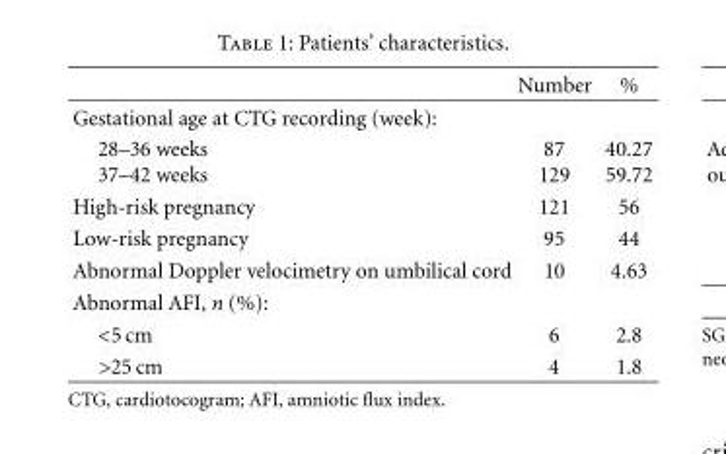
<table><thead><tr><td></td><td>Number</td><td>%</td></tr></thead><tbody><tr><td colspan="3">Gestational age at CTG recording (week):</td></tr><tr><td>28–36 weeks 37–42 weeks</td><td>87 129</td><td>40.27 59.72</td></tr><tr><td>High-risk pregnancy</td><td>121</td><td>56</td></tr><tr><td>Low-risk pregnancy</td><td>95</td><td>44</td></tr><tr><td>Abnormal Doppler velocimetry on umbilical cord</td><td>10</td><td>4.63</td></tr><tr><td colspan="3">Abnormal AFI, n (%):</td></tr><tr><td>&lt;5 cm</td><td>6</td><td>2.8</td></tr><tr><td>&gt;25 cm</td><td>4</td><td>1.8</td></tr></tbody></table>